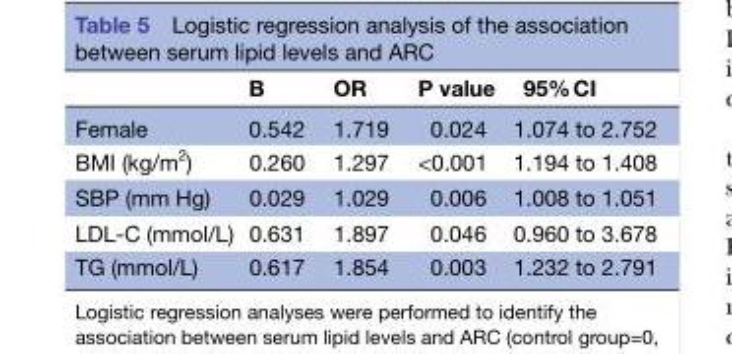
<table><thead><tr><td></td><td>B</td><td>OR</td><td>P value</td><td>95% CI</td></tr></thead><tbody><tr><td>Female</td><td>0.542</td><td>1.719</td><td>0.024</td><td>1.074 to 2.752</td></tr><tr><td>BMI (kg/m<sup>2</sup>)</td><td>0.260</td><td>1.297</td><td>&lt;0.001</td><td>1.194 to 1.408</td></tr><tr><td>SBP (mm Hg)</td><td>0.029</td><td>1.029</td><td>0.006</td><td>1.008 to 1.051</td></tr><tr><td>LDL-C (mmol/L)</td><td>0.631</td><td>1.897</td><td>0.046</td><td>0.960 to 3.678</td></tr><tr><td>TG (mmol/L)</td><td>0.617</td><td>1.854</td><td>0.003</td><td>1.232 to 2.791</td></tr></tbody></table>